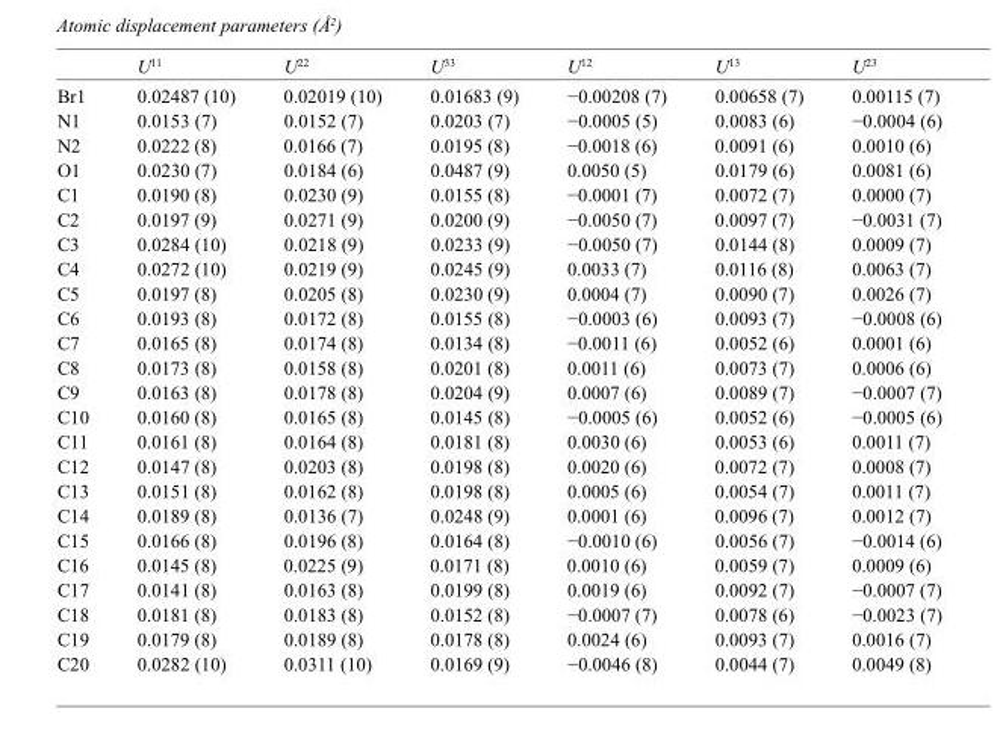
<table><thead><tr><td></td><td>U<sup>11</sup></td><td>U<sup>22</sup></td><td>U<sup>33</sup></td><td>U<sup>12</sup></td><td>U<sup>13</sup></td><td>U<sup>23</sup></td></tr></thead><tbody><tr><td>Br1</td><td>0.02487 (10)</td><td>0.02019 (10)</td><td>0.01683 (9)</td><td>−0.00208 (7)</td><td>0.00658 (7)</td><td>0.00115 (7)</td></tr><tr><td>N1</td><td>0.0153 (7)</td><td>0.0152 (7)</td><td>0.0203 (7)</td><td>−0.0005 (5)</td><td>0.0083 (6)</td><td>−0.0004 (6)</td></tr><tr><td>N2</td><td>0.0222 (8)</td><td>0.0166 (7)</td><td>0.0195 (8)</td><td>−0.0018 (6)</td><td>0.0091 (6)</td><td>0.0010 (6)</td></tr><tr><td>O1</td><td>0.0230 (7)</td><td>0.0184 (6)</td><td>0.0487 (9)</td><td>0.0050 (5)</td><td>0.0179 (6)</td><td>0.0081 (6)</td></tr><tr><td>C1</td><td>0.0190 (8)</td><td>0.0230 (9)</td><td>0.0155 (8)</td><td>−0.0001 (7)</td><td>0.0072 (7)</td><td>0.0000 (7)</td></tr><tr><td>C2</td><td>0.0197 (9)</td><td>0.0271 (9)</td><td>0.0200 (9)</td><td>−0.0050 (7)</td><td>0.0097 (7)</td><td>−0.0031 (7)</td></tr><tr><td>C3</td><td>0.0284 (10)</td><td>0.0218 (9)</td><td>0.0233 (9)</td><td>−0.0050 (7)</td><td>0.0144 (8)</td><td>0.0009 (7)</td></tr><tr><td>C4</td><td>0.0272 (10)</td><td>0.0219 (9)</td><td>0.0245 (9)</td><td>0.0033 (7)</td><td>0.0116 (8)</td><td>0.0063 (7)</td></tr><tr><td>C5</td><td>0.0197 (8)</td><td>0.0205 (8)</td><td>0.0230 (9)</td><td>0.0004 (7)</td><td>0.0090 (7)</td><td>0.0026 (7)</td></tr><tr><td>C6</td><td>0.0193 (8)</td><td>0.0172 (8)</td><td>0.0155 (8)</td><td>−0.0003 (6)</td><td>0.0093 (7)</td><td>−0.0008 (6)</td></tr><tr><td>C7</td><td>0.0165 (8)</td><td>0.0174 (8)</td><td>0.0134 (8)</td><td>−0.0011 (6)</td><td>0.0052 (6)</td><td>0.0001 (6)</td></tr><tr><td>C8</td><td>0.0173 (8)</td><td>0.0158 (8)</td><td>0.0201 (8)</td><td>0.0011 (6)</td><td>0.0073 (7)</td><td>0.0006 (6)</td></tr><tr><td>C9</td><td>0.0163 (8)</td><td>0.0178 (8)</td><td>0.0204 (9)</td><td>0.0007 (6)</td><td>0.0089 (7)</td><td>−0.0007 (7)</td></tr><tr><td>C10</td><td>0.0160 (8)</td><td>0.0165 (8)</td><td>0.0145 (8)</td><td>−0.0005 (6)</td><td>0.0052 (6)</td><td>−0.0005 (6)</td></tr><tr><td>C11</td><td>0.0161 (8)</td><td>0.0164 (8)</td><td>0.0181 (8)</td><td>0.0030 (6)</td><td>0.0053 (6)</td><td>0.0011 (7)</td></tr><tr><td>C12</td><td>0.0147 (8)</td><td>0.0203 (8)</td><td>0.0198 (8)</td><td>0.0020 (6)</td><td>0.0072 (7)</td><td>0.0008 (7)</td></tr><tr><td>C13</td><td>0.0151 (8)</td><td>0.0162 (8)</td><td>0.0198 (8)</td><td>0.0005 (6)</td><td>0.0054 (7)</td><td>0.0011 (7)</td></tr><tr><td>C14</td><td>0.0189 (8)</td><td>0.0136 (7)</td><td>0.0248 (9)</td><td>0.0001 (6)</td><td>0.0096 (7)</td><td>0.0012 (7)</td></tr><tr><td>C15</td><td>0.0166 (8)</td><td>0.0196 (8)</td><td>0.0164 (8)</td><td>−0.0010 (6)</td><td>0.0056 (7)</td><td>−0.0014 (6)</td></tr><tr><td>C16</td><td>0.0145 (8)</td><td>0.0225 (9)</td><td>0.0171 (8)</td><td>0.0010 (6)</td><td>0.0059 (7)</td><td>0.0009 (6)</td></tr><tr><td>C17</td><td>0.0141 (8)</td><td>0.0163 (8)</td><td>0.0199 (8)</td><td>0.0019 (6)</td><td>0.0092 (7)</td><td>−0.0007 (7)</td></tr><tr><td>C18</td><td>0.0181 (8)</td><td>0.0183 (8)</td><td>0.0152 (8)</td><td>−0.0007 (7)</td><td>0.0078 (6)</td><td>−0.0023 (7)</td></tr><tr><td>C19</td><td>0.0179 (8)</td><td>0.0189 (8)</td><td>0.0178 (8)</td><td>0.0024 (6)</td><td>0.0093 (7)</td><td>0.0016 (7)</td></tr><tr><td>C20</td><td>0.0282 (10)</td><td>0.0311 (10)</td><td>0.0169 (9)</td><td>−0.0046 (8)</td><td>0.0044 (7)</td><td>0.0049 (8)</td></tr></tbody></table>